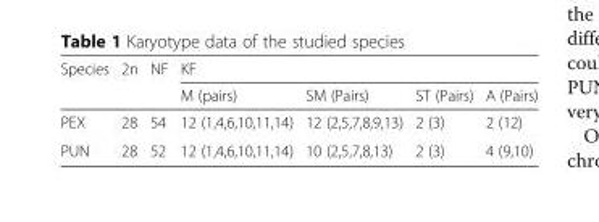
<table><thead><tr><td rowspan="2">Species</td><td rowspan="2">2n</td><td rowspan="2">NF</td><td colspan="4">KF</td></tr><tr><td>M (pairs)</td><td>SM (Pairs)</td><td>ST (Pairs)</td><td>A (Pairs)</td></tr></thead><tbody><tr><td>PEX</td><td>28</td><td>54</td><td>12 (1,4,6,10,11,14)</td><td>12 (2,5,7,8,9,13)</td><td>2 (3)</td><td>2 (12)</td></tr><tr><td>PUN</td><td>28</td><td>52</td><td>12 (1,4,6,10,11,14)</td><td>10 (2,5,7,8,13)</td><td>2 (3)</td><td>4 (9,10)</td></tr></tbody></table>